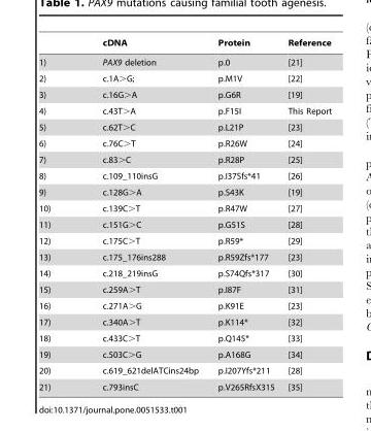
<table><thead><tr><td></td><td>cDNA</td><td>Protein</td><td>Reference</td></tr></thead><tbody><tr><td>1)</td><td>PAX9 deletion</td><td>p.0</td><td>[21]</td></tr><tr><td>2)</td><td>c.1A&gt;G;</td><td>p.M1V</td><td>[22]</td></tr><tr><td>3)</td><td>c.16G&gt;A</td><td>p.G6R</td><td>[19]</td></tr><tr><td>4)</td><td>c.43T&gt;A</td><td>p.F15I</td><td>This Report</td></tr><tr><td>5)</td><td>c.62T&gt;C</td><td>p.L21P</td><td>[23]</td></tr><tr><td>6)</td><td>c.76C&gt;T</td><td>p.R26W</td><td>[24]</td></tr><tr><td>7)</td><td>c.83&gt;C</td><td>p.R28P</td><td>[25]</td></tr><tr><td>8)</td><td>c.109_110insG</td><td>p.I37Sfs*41</td><td>[26]</td></tr><tr><td>9)</td><td>c.128G&gt;A</td><td>p.S43K</td><td>[19]</td></tr><tr><td>10)</td><td>c.139C&gt;T</td><td>p.R47W</td><td>[27]</td></tr><tr><td>11)</td><td>c.151G&gt;C</td><td>p.G51S</td><td>[28]</td></tr><tr><td>12)</td><td>c.175C&gt;T</td><td>p.R59*</td><td>[29]</td></tr><tr><td>13)</td><td>c.175_176ins288</td><td>p.R59Zfs*177</td><td>[23]</td></tr><tr><td>14)</td><td>c.218_219insG</td><td>p.S74Qfs*317</td><td>[30]</td></tr><tr><td>15)</td><td>c.259A&gt;T</td><td>p.I87F</td><td>[31]</td></tr><tr><td>16)</td><td>c.271A&gt;G</td><td>p.K91E</td><td>[23]</td></tr><tr><td>17)</td><td>c.340A&gt;T</td><td>p.K114*</td><td>[32]</td></tr><tr><td>18)</td><td>c.433C&gt;T</td><td>p.Q145*</td><td>[33]</td></tr><tr><td>19)</td><td>c.503C&gt;G</td><td>p.A168G</td><td>[34]</td></tr><tr><td>20)</td><td>c.619_621delATCins24bp</td><td>p.I207Yfs*211</td><td>[28]</td></tr><tr><td>21)</td><td>c.793insC</td><td>p.V265RfsX315</td><td>[35]</td></tr></tbody></table>